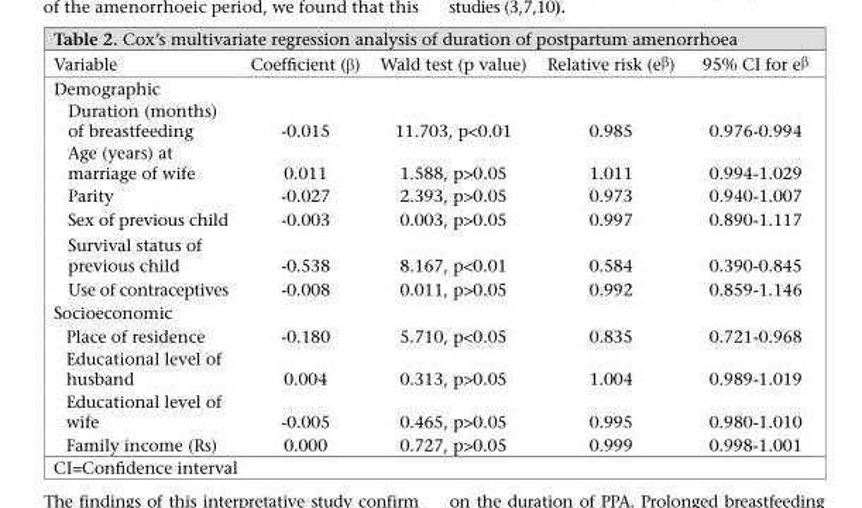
<table><thead><tr><td>Variable</td><td>Coefficient (β)</td><td>Wald test (p value)</td><td>Relative risk (eβ)</td><td>95% CI for eβ</td></tr></thead><tbody><tr><td colspan="5">Demographic</td></tr><tr><td>Duration (months) of breastfeeding</td><td>-0.015</td><td>11.703, p&lt;0.01</td><td>0.985</td><td>0.976-0.994</td></tr><tr><td>Age (years) at marriage of wife</td><td>0.011</td><td>1.588, p&gt;0.05</td><td>1.011</td><td>0.994-1.029</td></tr><tr><td>Parity</td><td>-0.027</td><td>2.393, p&gt;0.05</td><td>0.973</td><td>0.940-1.007</td></tr><tr><td>Sex of previous child</td><td>-0.003</td><td>0.003, p&gt;0.05</td><td>0.997</td><td>0.890-1.117</td></tr><tr><td>Survival status of previous child</td><td>-0.538</td><td>8.167, p&lt;0.01</td><td>0.584</td><td>0.390-0.845</td></tr><tr><td>Use of contraceptives</td><td>-0.008</td><td>0.011, p&gt;0.05</td><td>0.992</td><td>0.859-1.146</td></tr><tr><td colspan="5">Socioeconomic</td></tr><tr><td>Place of residence</td><td>-0.180</td><td>5.710, p&lt;0.05</td><td>0.835</td><td>0.721-0.968</td></tr><tr><td>Educational level of husband</td><td>0.004</td><td>0.313, p&gt;0.05</td><td>1.004</td><td>0.989-1.019</td></tr><tr><td>Educational level of wife</td><td>-0.005</td><td>0.465, p&gt;0.05</td><td>0.995</td><td>0.980-1.010</td></tr><tr><td>Family income (Rs)</td><td>0.000</td><td>0.727, p&gt;0.05</td><td>0.999</td><td>0.998-1.001</td></tr></tbody></table>